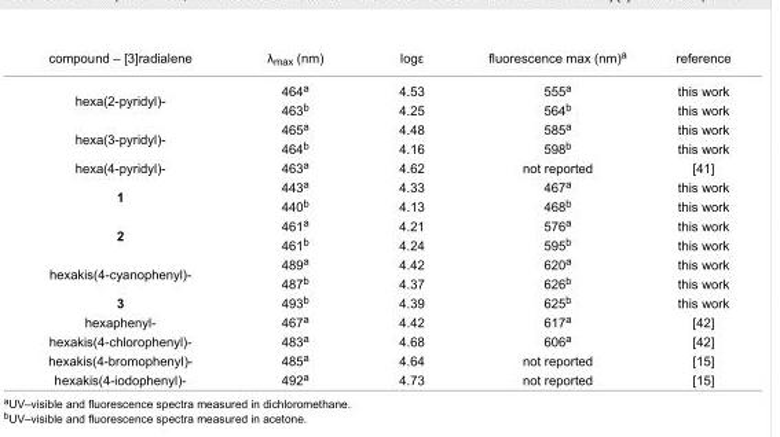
<table><tbody><tr><td>compound – [3]radialene</td><td>λ<sub>max</sub> (nm)</td><td>logε</td><td>fluorescence max (nm)<sup>a</sup></td><td>reference</td></tr><tr><td rowspan="2">hexa(2-pyridyl)-</td><td>464<sup>a</sup></td><td>4.53</td><td>555<sup>a</sup></td><td>this work</td></tr><tr><td>463<sup>b</sup></td><td>4.25</td><td>564<sup>b</sup></td><td>this work</td></tr><tr><td rowspan="2">hexa(3-pyridyl)-</td><td>465<sup>a</sup></td><td>4.48</td><td>585<sup>a</sup></td><td>this work</td></tr><tr><td>464<sup>b</sup></td><td>4.16</td><td>598<sup>b</sup></td><td>this work</td></tr><tr><td>hexa(4-pyridyl)-</td><td>463<sup>a</sup></td><td>4.62</td><td>not reported</td><td>[41]</td></tr><tr><td rowspan="2">1</td><td>443<sup>a</sup></td><td>4.33</td><td>467<sup>a</sup></td><td>this work</td></tr><tr><td>440<sup>b</sup></td><td>4.13</td><td>468<sup>b</sup></td><td>this work</td></tr><tr><td rowspan="2">2</td><td>461<sup>a</sup></td><td>4.21</td><td>576<sup>a</sup></td><td>this work</td></tr><tr><td>461<sup>b</sup></td><td>4.24</td><td>595<sup>b</sup></td><td>this work</td></tr><tr><td rowspan="2">hexakis(4-cyanophenyl)-</td><td>489<sup>a</sup></td><td>4.42</td><td>620<sup>a</sup></td><td>this work</td></tr><tr><td>487<sup>b</sup></td><td>4.37</td><td>626<sup>b</sup></td><td>this work</td></tr><tr><td>3</td><td>493<sup>b</sup></td><td>4.39</td><td>625<sup>b</sup></td><td>this work</td></tr><tr><td>hexaphenyl-</td><td>467<sup>a</sup></td><td>4.42</td><td>617<sup>a</sup></td><td>[42]</td></tr><tr><td>hexakis(4-chlorophenyl)-</td><td>483<sup>a</sup></td><td>4.68</td><td>606<sup>a</sup></td><td>[42]</td></tr><tr><td>hexakis(4-bromophenyl)-</td><td>485<sup>a</sup></td><td>4.64</td><td>not reported</td><td>[15]</td></tr><tr><td>hexakis(4-iodophenyl)-</td><td>492<sup>a</sup></td><td>4.73</td><td>not reported</td><td>[15]</td></tr></tbody></table>